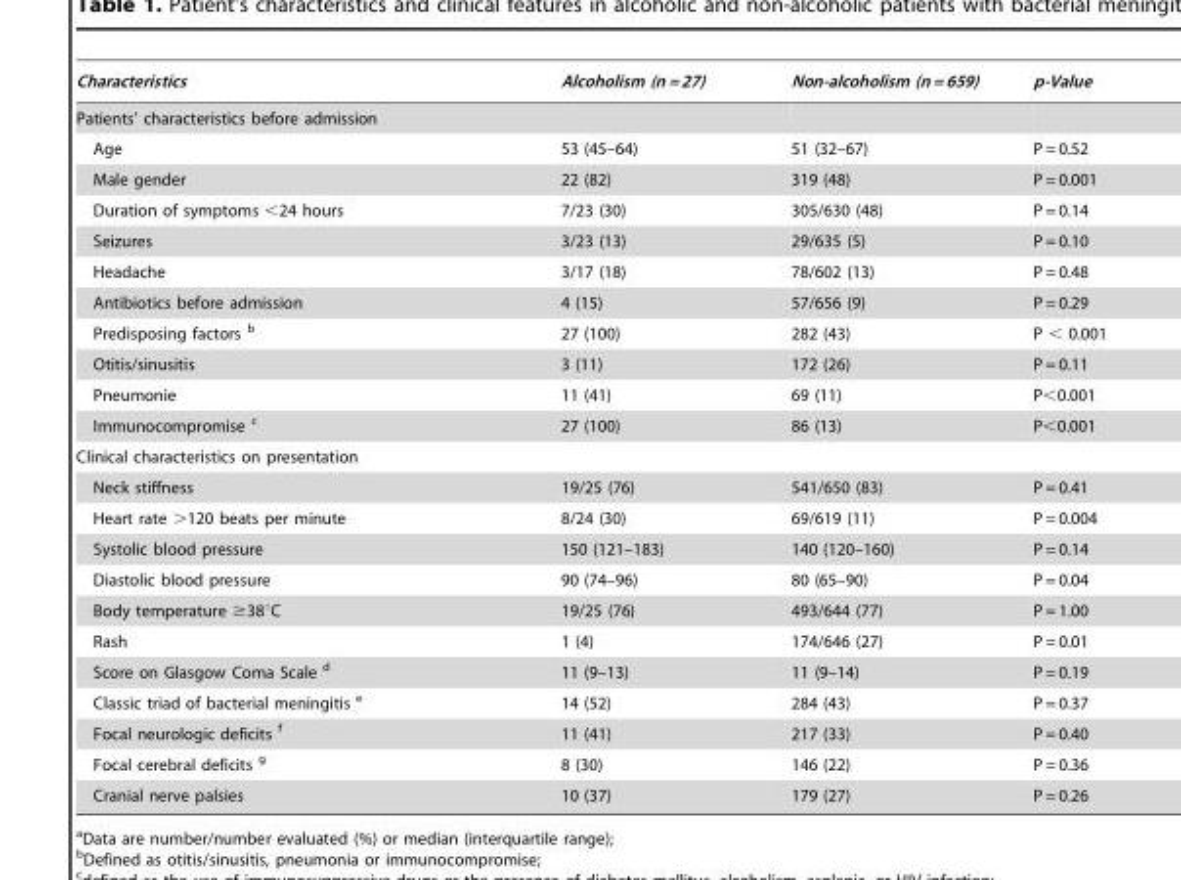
<table><thead><tr><td>Characteristics</td><td>Alcoholism (n = 27)</td><td>Non-alcoholism (n = 659)</td><td>p-Value</td></tr></thead><tbody><tr><td colspan="4">Patients’ characteristics before admission</td></tr><tr><td>Age</td><td>53 (45–64)</td><td>51 (32–67)</td><td>P = 0.52</td></tr><tr><td>Male gender</td><td>22 (82)</td><td>319 (48)</td><td>P = 0.001</td></tr><tr><td>Duration of symptoms &lt;24 hours</td><td>7/23 (30)</td><td>305/630 (48)</td><td>P = 0.14</td></tr><tr><td>Seizures</td><td>3/23 (13)</td><td>29/635 (5)</td><td>P = 0.10</td></tr><tr><td>Headache</td><td>3/17 (18)</td><td>78/602 (13)</td><td>P = 0.48</td></tr><tr><td>Antibiotics before admission</td><td>4 (15)</td><td>57/656 (9)</td><td>P = 0.29</td></tr><tr><td>Predisposing factors b</td><td>27 (100)</td><td>282 (43)</td><td>P &lt; 0.001</td></tr><tr><td>Otitis/sinusitis</td><td>3 (11)</td><td>172 (26)</td><td>P = 0.11</td></tr><tr><td>Pneumonie</td><td>11 (41)</td><td>69 (11)</td><td>P&lt;0.001</td></tr><tr><td>Immunocompromise c</td><td>27 (100)</td><td>86 (13)</td><td>P&lt;0.001</td></tr><tr><td colspan="4">Clinical characteristics on presentation</td></tr><tr><td>Neck stiffness</td><td>19/25 (76)</td><td>541/650 (83)</td><td>P = 0.41</td></tr><tr><td>Heart rate &gt;120 beats per minute</td><td>8/24 (30)</td><td>69/619 (11)</td><td>P = 0.004</td></tr><tr><td>Systolic blood pressure</td><td>150 (121–183)</td><td>140 (120–160)</td><td>P = 0.14</td></tr><tr><td>Diastolic blood pressure</td><td>90 (74–96)</td><td>80 (65–90)</td><td>P = 0.04</td></tr><tr><td>Body temperature ≥38°C</td><td>19/25 (76)</td><td>493/644 (77)</td><td>P = 1.00</td></tr><tr><td>Rash</td><td>1 (4)</td><td>174/646 (27)</td><td>P = 0.01</td></tr><tr><td>Score on Glasgow Coma Scale d</td><td>11 (9–13)</td><td>11 (9–14)</td><td>P = 0.19</td></tr><tr><td>Classic triad of bacterial meningitis e</td><td>14 (52)</td><td>284 (43)</td><td>P = 0.37</td></tr><tr><td>Focal neurologic deficits f</td><td>11 (41)</td><td>217 (33)</td><td>P = 0.40</td></tr><tr><td>Focal cerebral deficits g</td><td>8 (30)</td><td>146 (22)</td><td>P = 0.36</td></tr><tr><td>Cranial nerve palsies</td><td>10 (37)</td><td>179 (27)</td><td>P = 0.26</td></tr></tbody></table>